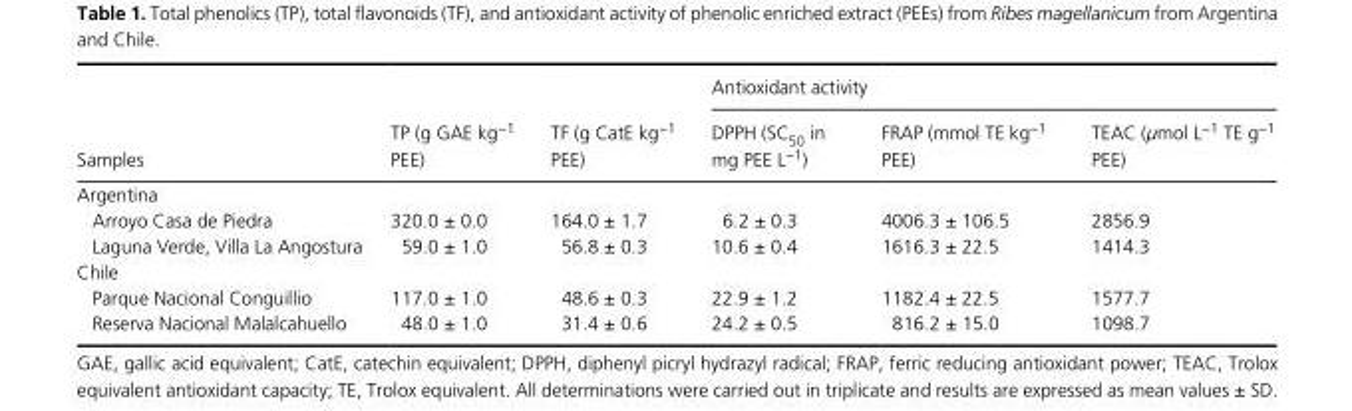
<table><thead><tr><td rowspan="2">Samples</td><td rowspan="2">TP (g GAE kg<sup>−1</sup> PEE)</td><td rowspan="2">TF (g CatE kg<sup>−1</sup> PEE)</td><td colspan="3">Antioxidant activity</td></tr><tr><td>DPPH (SC<sub>50</sub> in mg PEE L<sup>−1</sup>)</td><td>FRAP (mmol TE kg<sup>−1</sup> PEE)</td><td>TEAC (μmol L<sup>−1</sup> TE g<sup>−1</sup> PEE)</td></tr></thead><tbody><tr><td colspan="6">Argentina</td></tr><tr><td>Arroyo Casa de Piedra</td><td>320.0 ± 0.0</td><td>164.0 ± 1.7</td><td>6.2 ± 0.3</td><td>4006.3 ± 106.5</td><td>2856.9</td></tr><tr><td>Laguna Verde, Villa La Angostura</td><td>59.0 ± 1.0</td><td>56.8 ± 0.3</td><td>10.6 ± 0.4</td><td>1616.3 ± 22.5</td><td>1414.3</td></tr><tr><td colspan="6">Chile</td></tr><tr><td>Parque Nacional Conguillio</td><td>117.0 ± 1.0</td><td>48.6 ± 0.3</td><td>22.9 ± 1.2</td><td>1182.4 ± 22.5</td><td>1577.7</td></tr><tr><td>Reserva Nacional Malalcahuello</td><td>48.0 ± 1.0</td><td>31.4 ± 0.6</td><td>24.2 ± 0.5</td><td>816.2 ± 15.0</td><td>1098.7</td></tr></tbody></table>